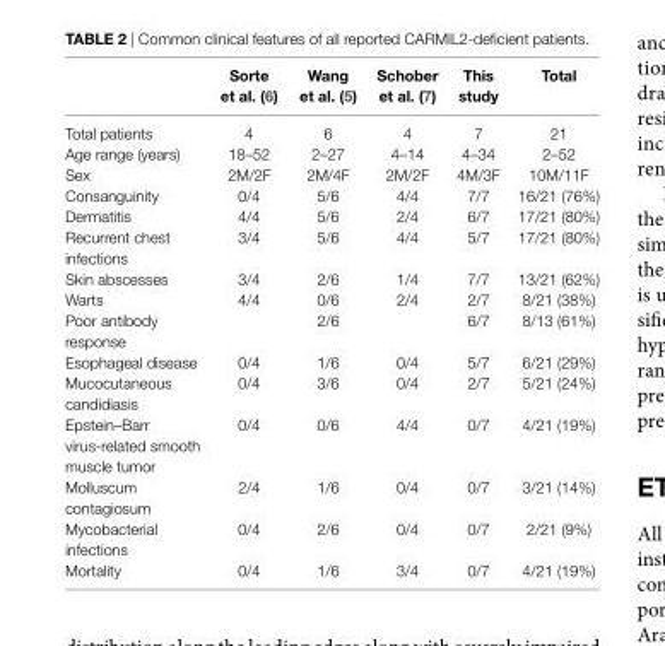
<table><thead><tr><td></td><td>sorte et al. (6)</td><td>Wang et al. (5)</td><td>schober et al. (7)</td><td>This study</td><td>Total</td></tr></thead><tbody><tr><td>Total patients</td><td>4</td><td>6</td><td>4</td><td>7</td><td>21</td></tr><tr><td>Age range (years)</td><td>18–52</td><td>2–27</td><td>4–14</td><td>4–34</td><td>2–52</td></tr><tr><td>Sex</td><td>2M/2F</td><td>2M/4F</td><td>2M/2F</td><td>4M/3F</td><td>10M/11F</td></tr><tr><td>Consanguinity</td><td>0/4</td><td>5/6</td><td>4/4</td><td>7/7</td><td>16/21 (76%)</td></tr><tr><td>Dermatitis</td><td>4/4</td><td>5/6</td><td>2/4</td><td>6/7</td><td>17/21 (80%)</td></tr><tr><td>Recurrent chest infections</td><td>3/4</td><td>5/6</td><td>4/4</td><td>5/7</td><td>17/21 (80%)</td></tr><tr><td>Skin abscesses</td><td>3/4</td><td>2/6</td><td>1/4</td><td>7/7</td><td>13/21 (62%)</td></tr><tr><td>Warts</td><td>4/4</td><td>0/6</td><td>2/4</td><td>2/7</td><td>8/21 (38%)</td></tr><tr><td>Poor antibody response</td><td></td><td>2/6</td><td></td><td>6/7</td><td>8/13 (61%)</td></tr><tr><td>Esophageal disease</td><td>0/4</td><td>1/6</td><td>0/4</td><td>5/7</td><td>6/21 (29%)</td></tr><tr><td>Mucocutaneous candidiasis</td><td>0/4</td><td>3/6</td><td>0/4</td><td>2/7</td><td>5/21 (24%)</td></tr><tr><td>Epstein–Barr virusrelated smooth muscle tumor</td><td>0/4</td><td>0/6</td><td>4/4</td><td>0/7</td><td>4/21 (19%)</td></tr><tr><td>Molluscum contagiosum</td><td>2/4</td><td>1/6</td><td>0/4</td><td>0/7</td><td>3/21 (14%)</td></tr><tr><td>Mycobacterial infections</td><td>0/4</td><td>2/6</td><td>0/4</td><td>0/7</td><td>2/21 (9%)</td></tr><tr><td>Mortality</td><td>0/4</td><td>1/6</td><td>3/4</td><td>0/7</td><td>4/21 (19%)</td></tr></tbody></table>